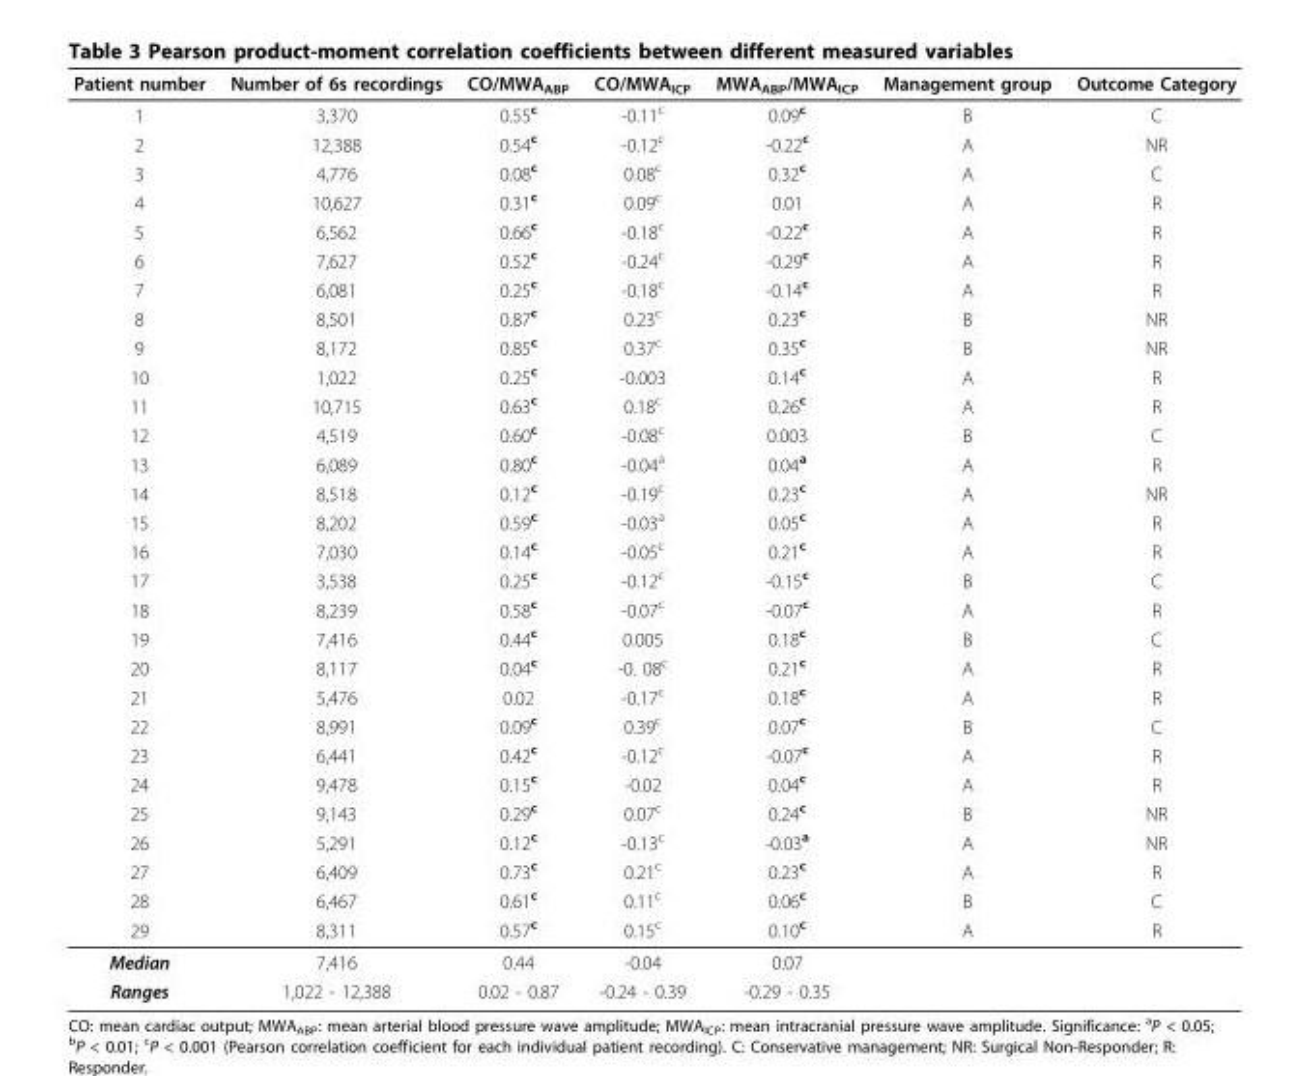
<table><thead><tr><td>Patient number</td><td>Number of 6s recordings</td><td>CO/MWA<sub>ABP</sub></td><td>CO/MWA<sub>ICP</sub></td><td>MWA<sub>ABP</sub>/MWA<sub>ICP</sub></td><td>Management group</td><td>Outcome Category</td></tr></thead><tbody><tr><td>1</td><td>3,370</td><td>0.55<sup>c</sup></td><td>-0.11<sup>c</sup></td><td>0.09<sup>c</sup></td><td>B</td><td>C</td></tr><tr><td>2</td><td>12,388</td><td>0.54<sup>c</sup></td><td>-0.12<sup>c</sup></td><td>-0.22<sup>c</sup></td><td>A</td><td>NR</td></tr><tr><td>3</td><td>4,776</td><td>0.08<sup>c</sup></td><td>0.08<sup>c</sup></td><td>0.32<sup>c</sup></td><td>A</td><td>C</td></tr><tr><td>4</td><td>10,627</td><td>0.31<sup>c</sup></td><td>0.09<sup>c</sup></td><td>0.01</td><td>A</td><td>R</td></tr><tr><td>5</td><td>6,562</td><td>0.66<sup>c</sup></td><td>-0.18<sup>c</sup></td><td>-0.22<sup>c</sup></td><td>A</td><td>R</td></tr><tr><td>6</td><td>7,627</td><td>0.52<sup>c</sup></td><td>-0.24<sup>c</sup></td><td>-0.29<sup>c</sup></td><td>A</td><td>R</td></tr><tr><td>7</td><td>6,081</td><td>0.25<sup>c</sup></td><td>-0.18<sup>c</sup></td><td>-0.14<sup>c</sup></td><td>A</td><td>R</td></tr><tr><td>8</td><td>8,501</td><td>0.87<sup>c</sup></td><td>0.23<sup>c</sup></td><td>0.23<sup>c</sup></td><td>B</td><td>NR</td></tr><tr><td>9</td><td>8,172</td><td>0.85<sup>c</sup></td><td>0.37<sup>c</sup></td><td>0.35<sup>c</sup></td><td>B</td><td>NR</td></tr><tr><td>10</td><td>1,022</td><td>0.25<sup>c</sup></td><td>-0.003</td><td>0.14<sup>c</sup></td><td>A</td><td>R</td></tr><tr><td>11</td><td>10,715</td><td>0.63<sup>c</sup></td><td>0.18<sup>c</sup></td><td>0.26<sup>c</sup></td><td>A</td><td>R</td></tr><tr><td>12</td><td>4,519</td><td>0.60<sup>c</sup></td><td>-0.08<sup>c</sup></td><td>0.003</td><td>B</td><td>C</td></tr><tr><td>13</td><td>6,089</td><td>0.80<sup>c</sup></td><td>-0.04<sup>a</sup></td><td>0.04<sup>a</sup></td><td>A</td><td>R</td></tr><tr><td>14</td><td>8,518</td><td>0.12<sup>c</sup></td><td>-0.19<sup>c</sup></td><td>0.23<sup>c</sup></td><td>A</td><td>NR</td></tr><tr><td>15</td><td>8,202</td><td>0.59<sup>c</sup></td><td>-0.03<sup>a</sup></td><td>0.05<sup>c</sup></td><td>A</td><td>R</td></tr><tr><td>16</td><td>7,030</td><td>0.14<sup>c</sup></td><td>-0.05<sup>c</sup></td><td>0.21<sup>c</sup></td><td>A</td><td>R</td></tr><tr><td>17</td><td>3,538</td><td>0.25<sup>c</sup></td><td>-0.12<sup>c</sup></td><td>-0.15<sup>c</sup></td><td>B</td><td>C</td></tr><tr><td>18</td><td>8,239</td><td>0.58<sup>c</sup></td><td>-0.07<sup>c</sup></td><td>-0.07<sup>c</sup></td><td>A</td><td>R</td></tr><tr><td>19</td><td>7,416</td><td>0.44<sup>c</sup></td><td>0.005</td><td>0.18<sup>c</sup></td><td>B</td><td>C</td></tr><tr><td>20</td><td>8,117</td><td>0.04<sup>c</sup></td><td>-0. 08<sup>c</sup></td><td>0.21<sup>c</sup></td><td>A</td><td>R</td></tr><tr><td>21</td><td>5,476</td><td>0.02</td><td>-0.17<sup>c</sup></td><td>0.18<sup>c</sup></td><td>A</td><td>R</td></tr><tr><td>22</td><td>8,991</td><td>0.09<sup>c</sup></td><td>0.39<sup>c</sup></td><td>0.07<sup>c</sup></td><td>B</td><td>C</td></tr><tr><td>23</td><td>6,441</td><td>0.42<sup>c</sup></td><td>-0.12<sup>c</sup></td><td>-0.07<sup>c</sup></td><td>A</td><td>R</td></tr><tr><td>24</td><td>9,478</td><td>0.15<sup>c</sup></td><td>-0.02</td><td>0.04<sup>c</sup></td><td>A</td><td>R</td></tr><tr><td>25</td><td>9,143</td><td>0.29<sup>c</sup></td><td>0.07<sup>c</sup></td><td>0.24<sup>c</sup></td><td>B</td><td>NR</td></tr><tr><td>26</td><td>5,291</td><td>0.12<sup>c</sup></td><td>-0.13<sup>c</sup></td><td>-0.03<sup>a</sup></td><td>A</td><td>NR</td></tr><tr><td>27</td><td>6,409</td><td>0.73<sup>c</sup></td><td>0.21<sup>c</sup></td><td>0.23<sup>c</sup></td><td>A</td><td>R</td></tr><tr><td>28</td><td>6,467</td><td>0.61<sup>c</sup></td><td>0.11<sup>c</sup></td><td>0.06<sup>c</sup></td><td>B</td><td>C</td></tr><tr><td>29</td><td>8,311</td><td>0.57<sup>c</sup></td><td>0.15<sup>c</sup></td><td>0.10<sup>c</sup></td><td>A</td><td>R</td></tr><tr><td>Median</td><td>7,416</td><td>0.44</td><td>-0.04</td><td>0.07</td><td></td><td></td></tr><tr><td>Ranges</td><td>1,022 - 12,388</td><td>0.02 - 0.87</td><td>-0.24 - 0.39</td><td>-0.29 - 0.35</td><td></td><td></td></tr></tbody></table>